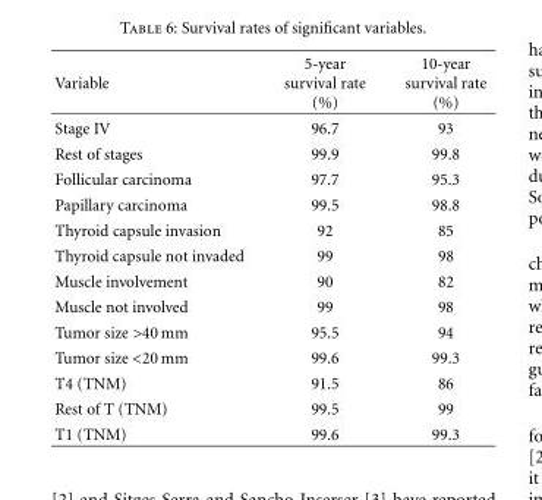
<table><thead><tr><td>Variable</td><td>5-year survival rate (%)</td><td>10-year survival rate (%)</td></tr></thead><tbody><tr><td>Stage IV</td><td>96.7</td><td>93</td></tr><tr><td>Rest of stages</td><td>99.9</td><td>99.8</td></tr><tr><td>Follicular carcinoma</td><td>97.7</td><td>95.3</td></tr><tr><td>Papillary carcinoma</td><td>99.5</td><td>98.8</td></tr><tr><td>Thyroid capsule invasion</td><td>92</td><td>85</td></tr><tr><td>Thyroid capsule not invaded</td><td>99</td><td>98</td></tr><tr><td>Muscle involvement</td><td>90</td><td>82</td></tr><tr><td>Muscle not involved</td><td>99</td><td>98</td></tr><tr><td>Tumor size &gt;40 mm</td><td>95.5</td><td>94</td></tr><tr><td>Tumor size &lt;20 mm</td><td>99.6</td><td>99.3</td></tr><tr><td>T4 (TNM)</td><td>91.5</td><td>86</td></tr><tr><td>Rest of T (TNM)</td><td>99.5</td><td>99</td></tr><tr><td>T1 (TNM)</td><td>99.6</td><td>99.3</td></tr></tbody></table>